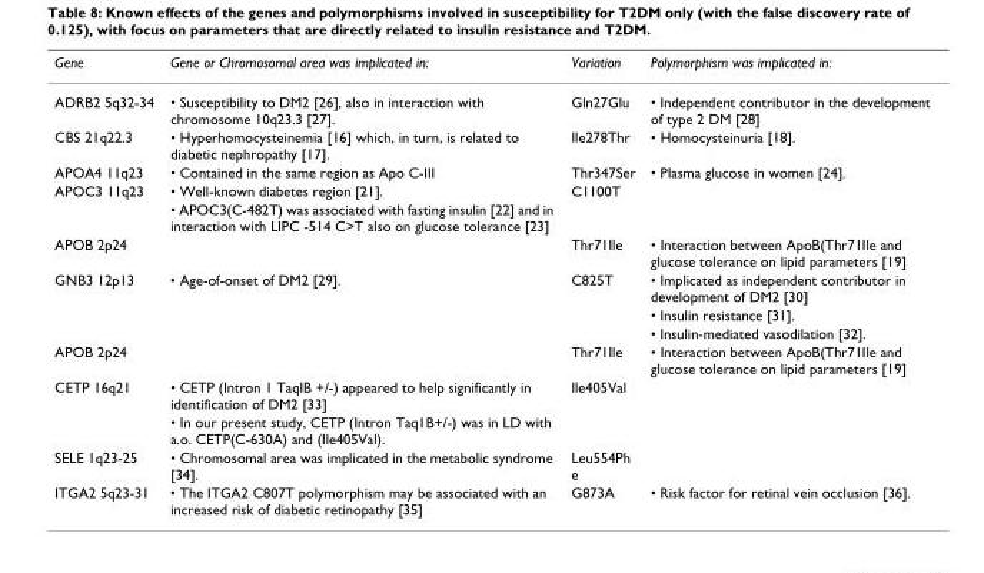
<table><thead><tr><td>Gene</td><td>Gene or Chromosomal area was implicated in:</td><td>Variation</td><td>Polymorphism was implicated in:</td></tr></thead><tbody><tr><td>ADRB2 5q32-34</td><td>• Susceptibility to DM2 [26], also in interaction with chromosome 10q23.3 [27].</td><td>Gln27Glu</td><td>• Independent contributor in the development of type 2 DM [28]</td></tr><tr><td>CBS 21q22.3</td><td>• Hyperhomocysteinemia [16] which, in turn, is related to diabetic nephropathy [17].</td><td>Ile278Thr</td><td>• Homocysteinuria [18].</td></tr><tr><td>APOA4 11q23</td><td>• Contained in the same region as Apo C-III</td><td>Thr347Ser</td><td>• Plasma glucose in women [24].</td></tr><tr><td rowspan="2">APOC3 11q23</td><td>• Well-known diabetes region [21].</td><td>C1100T</td><td></td></tr><tr><td>• APOC3(C-482T) was associated with fasting insulin [22] and in interaction with LIPC -514 C&gt;T also on glucose tolerance [23]</td><td></td><td></td></tr><tr><td>APOB 2p24</td><td></td><td>Thr71Ile</td><td>• Interaction between ApoB(Thr71Ile and glucose tolerance on lipid parameters [19]</td></tr><tr><td rowspan="3">GNB3 12p13</td><td>• Age-of-onset of DM2 [29].</td><td>C825T</td><td>• Implicated as independent contributor in development of DM2 [30]</td></tr><tr><td></td><td></td><td>• Insulin resistance [31].</td></tr><tr><td></td><td></td><td>• Insulin-mediated vasodilation [32].</td></tr><tr><td>APOB 2p24</td><td></td><td>Thr71Ile</td><td>• Interaction between ApoB(Thr71Ile and glucose tolerance on lipid parameters [19]</td></tr><tr><td rowspan="2">CETP 16q21</td><td>• CETP (Intron 1 TaqIB +/-) appeared to help significantly in identification of DM2 [33]</td><td>Ile405Val</td><td></td></tr><tr><td>• In our present study, CETP (Intron Taq1B+/-) was in LD with a.o. CETP(C-630A) and (Ile405Val).</td><td></td><td></td></tr><tr><td>SELE 1q23-25</td><td>• Chromosomal area was implicated in the metabolic syndrome [34].</td><td>Leu554Ph e</td><td></td></tr><tr><td>ITGA2 5q23-31</td><td>• The ITGA2 C807T polymorphism may be associated with an increased risk of diabetic retinopathy [35]</td><td>G873A</td><td>• Risk factor for retinal vein occlusion [36].</td></tr></tbody></table>